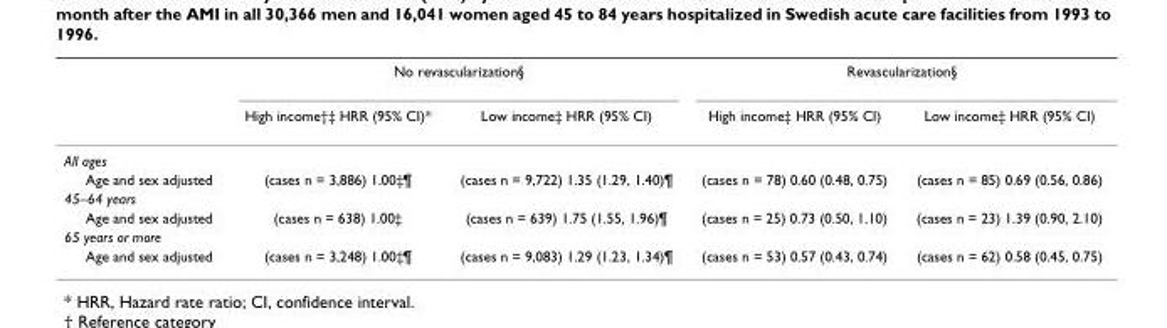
<table><thead><tr><td rowspan="2"></td><td colspan="2">No revascularization§</td><td colspan="2">Revascularization§</td></tr><tr><td>High income†‡ HRR (95% CI)*</td><td>Low income‡ HRR (95% CI)</td><td>High income‡ HRR (95% CI)</td><td>Low income‡ HRR (95% CI)</td></tr></thead><tbody><tr><td colspan="5">All ages</td></tr><tr><td>Age and sex adjusted</td><td>(cases n = 3,886) 1.00‡¶</td><td>(cases n = 9,722) 1.35 (1.29, 1.40)¶</td><td>(cases n = 78) 0.60 (0.48, 0.75)</td><td>(cases n = 85) 0.69 (0.56, 0.86)</td></tr><tr><td colspan="5">45–64 years</td></tr><tr><td>Age and sex adjusted</td><td>(cases n = 638) 1.00‡</td><td>(cases n = 639) 1.75 (1.55, 1.96)¶</td><td>(cases n = 25) 0.73 (0.50, 1.10)</td><td>(cases n = 23) 1.39 (0.90, 2.10)</td></tr><tr><td colspan="5">65 years or more</td></tr><tr><td>Age and sex adjusted</td><td>(cases n = 3,248) 1.00‡¶</td><td>(cases n = 9,083) 1.29 (1.23, 1.34)¶</td><td>(cases n = 53) 0.57 (0.43, 0.74)</td><td>(cases n = 62) 0.58 (0.45, 0.75)</td></tr></tbody></table>